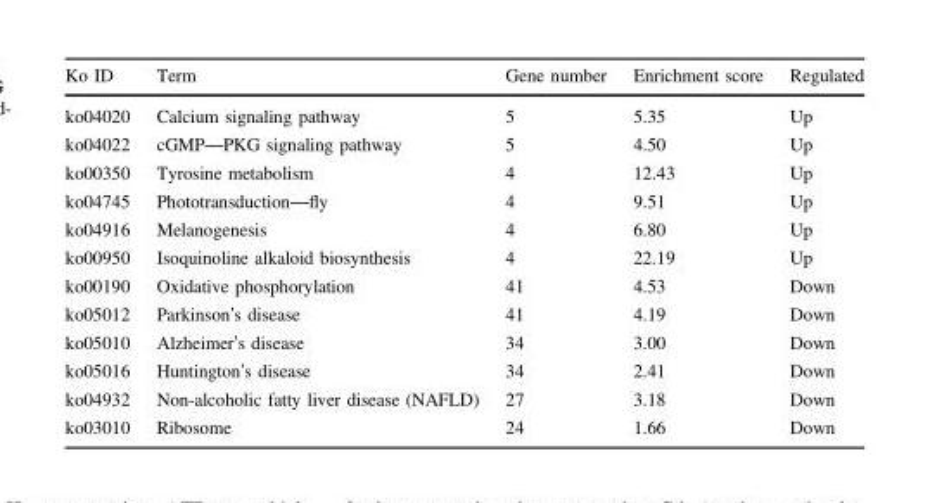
<table><thead><tr><td>Ko ID</td><td>Term</td><td>Gene number</td><td>Enrichment score</td><td>Regulated</td></tr></thead><tbody><tr><td>ko04020</td><td>Calcium signaling pathway</td><td>5</td><td>5.35</td><td>Up</td></tr><tr><td>ko04022</td><td>cGMP—PKG signaling pathway</td><td>5</td><td>4.50</td><td>Up</td></tr><tr><td>ko00350</td><td>Tyrosine metabolism</td><td>4</td><td>12.43</td><td>Up</td></tr><tr><td>ko04745</td><td>Phototransduction—fly</td><td>4</td><td>9.51</td><td>Up</td></tr><tr><td>ko04916</td><td>Melanogenesis</td><td>4</td><td>6.80</td><td>Up</td></tr><tr><td>ko00950</td><td>Isoquinoline alkaloid biosynthesis</td><td>4</td><td>22.19</td><td>Up</td></tr><tr><td>ko00190</td><td>Oxidative phosphorylation</td><td>41</td><td>4.53</td><td>Down</td></tr><tr><td>ko05012</td><td>Parkinson’s disease</td><td>41</td><td>4.19</td><td>Down</td></tr><tr><td>ko05010</td><td>Alzheimer’s disease</td><td>34</td><td>3.00</td><td>Down</td></tr><tr><td>ko05016</td><td>Huntington’s disease</td><td>34</td><td>2.41</td><td>Down</td></tr><tr><td>ko04932</td><td>Non-alcoholic fatty liver disease (NAFLD)</td><td>27</td><td>3.18</td><td>Down</td></tr><tr><td>ko03010</td><td>Ribosome</td><td>24</td><td>1.66</td><td>Down</td></tr></tbody></table>